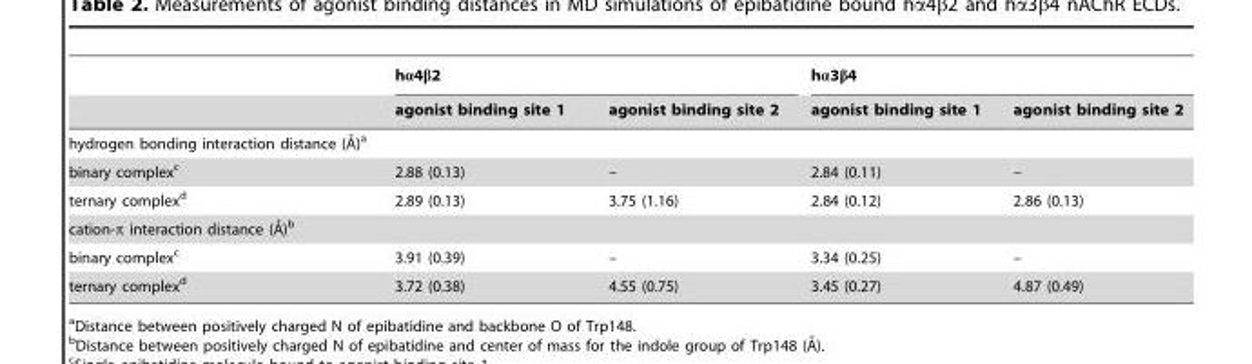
<table><thead><tr><td rowspan="2"></td><td colspan="2">hα4β2</td><td colspan="2">hα3β4</td></tr><tr><td>agonist binding site 1</td><td>agonist binding site 2</td><td>agonist binding site 1</td><td>agonist binding site 2</td></tr></thead><tbody><tr><td colspan="5">hydrogen bonding interaction distance (A˚)a</td></tr><tr><td>binary complex<sup>c</sup></td><td>2.88 (0.13)</td><td>–</td><td>2.84 (0.11)</td><td>–</td></tr><tr><td>ternary complex<sup>d</sup></td><td>2.89 (0.13)</td><td>3.75 (1.16)</td><td>2.84 (0.12)</td><td>2.86 (0.13)</td></tr><tr><td colspan="5">cation-p interaction distance (A˚)b</td></tr><tr><td>binary complex<sup>c</sup></td><td>3.91 (0.39)</td><td>–</td><td>3.34 (0.25)</td><td>–</td></tr><tr><td>ternary complex<sup>d</sup></td><td>3.72 (0.38)</td><td>4.55 (0.75)</td><td>3.45 (0.27)</td><td>4.87 (0.49)</td></tr></tbody></table>